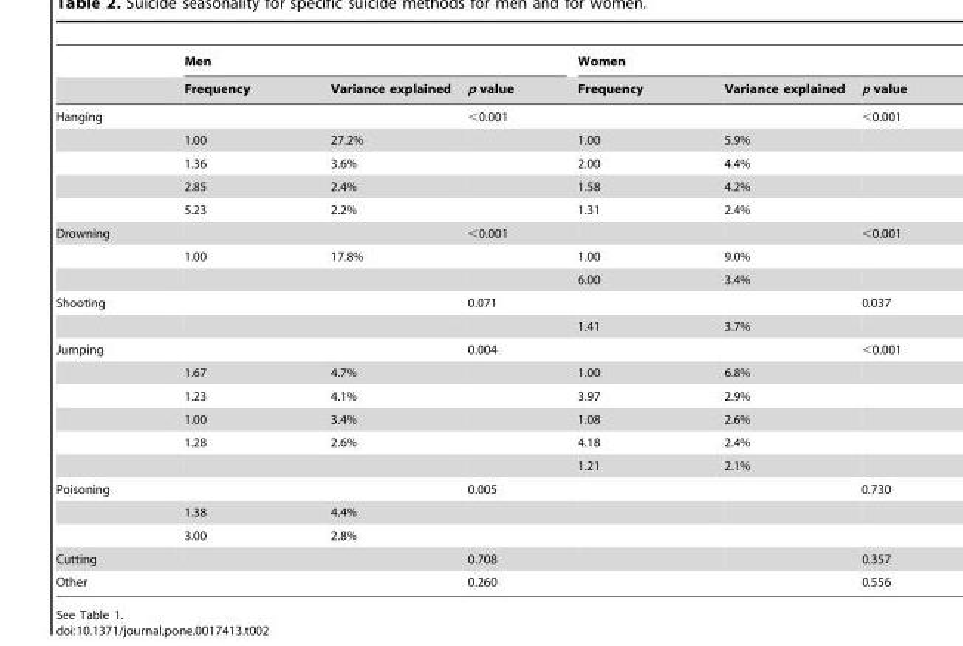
<table><thead><tr><td rowspan="2"></td><td colspan="3">Men</td><td colspan="3">Women</td></tr><tr><td>Frequency</td><td>Variance explained</td><td>p value</td><td>Frequency</td><td>Variance explained</td><td>p value</td></tr></thead><tbody><tr><td rowspan="5">Hanging</td><td></td><td></td><td>&lt;0.001</td><td></td><td></td><td>&lt;0.001</td></tr><tr><td>1.00</td><td>27.2%</td><td></td><td>1.00</td><td>5.9%</td><td></td></tr><tr><td>1.36</td><td>3.6%</td><td></td><td>2.00</td><td>4.4%</td><td></td></tr><tr><td>2.85</td><td>2.4%</td><td></td><td>1.58</td><td>4.2%</td><td></td></tr><tr><td>5.23</td><td>2.2%</td><td></td><td>1.31</td><td>2.4%</td><td></td></tr><tr><td rowspan="3">Drowning</td><td></td><td></td><td>&lt;0.001</td><td></td><td></td><td>&lt;0.001</td></tr><tr><td>1.00</td><td>17.8%</td><td></td><td>1.00</td><td>9.0%</td><td></td></tr><tr><td></td><td></td><td></td><td>6.00</td><td>3.4%</td><td></td></tr><tr><td rowspan="2">Shooting</td><td></td><td></td><td>0.071</td><td></td><td></td><td>0.037</td></tr><tr><td></td><td></td><td></td><td>1.41</td><td>3.7%</td><td></td></tr><tr><td rowspan="6">Jumping</td><td></td><td></td><td>0.004</td><td></td><td></td><td>&lt;0.001</td></tr><tr><td>1.67</td><td>4.7%</td><td></td><td>1.00</td><td>6.8%</td><td></td></tr><tr><td>1.23</td><td>4.1%</td><td></td><td>3.97</td><td>2.9%</td><td></td></tr><tr><td>1.00</td><td>3.4%</td><td></td><td>1.08</td><td>2.6%</td><td></td></tr><tr><td>1.28</td><td>2.6%</td><td></td><td>4.18</td><td>2.4%</td><td></td></tr><tr><td></td><td></td><td></td><td>1.21</td><td>2.1%</td><td></td></tr><tr><td rowspan="3">Poisoning</td><td></td><td></td><td>0.005</td><td></td><td></td><td>0.730</td></tr><tr><td>1.38</td><td>4.4%</td><td></td><td></td><td></td><td></td></tr><tr><td>3.00</td><td>2.8%</td><td></td><td></td><td></td><td></td></tr><tr><td>Cutting</td><td></td><td></td><td>0.708</td><td></td><td></td><td>0.357</td></tr><tr><td>Other</td><td></td><td></td><td>0.260</td><td></td><td></td><td>0.556</td></tr></tbody></table>